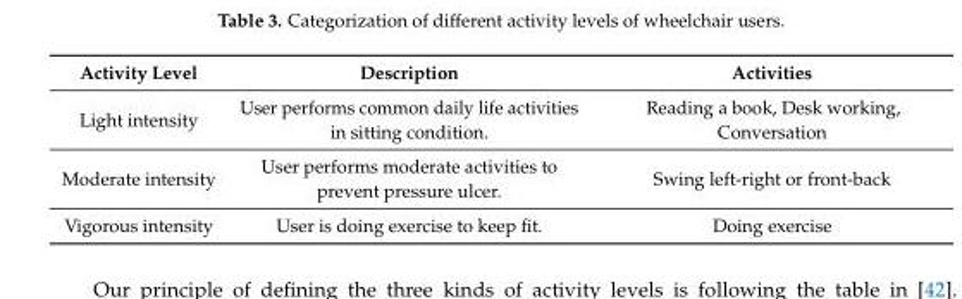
<table><thead><tr><td>Activity Level</td><td>Description</td><td>Activities</td></tr></thead><tbody><tr><td>Light intensity</td><td>User performs common daily life activities in sitting condition.</td><td>Reading a book, Desk working, Conversation</td></tr><tr><td>Moderate intensity</td><td>User performs moderate activities to prevent pressure ulcer.</td><td>Swing left-right or front-back</td></tr><tr><td>Vigorous intensity</td><td>User is doing exercise to keep fit.</td><td>Doing exercise</td></tr></tbody></table>